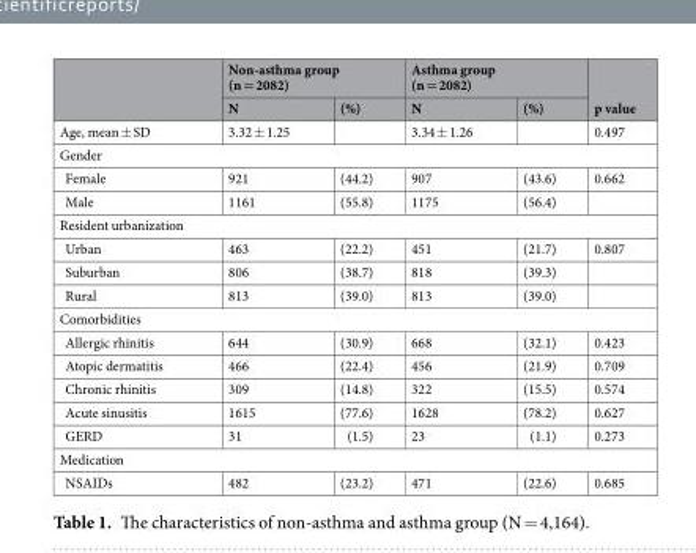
<table><thead><tr><td rowspan="2"></td><td colspan="2">Non-asthma group (n = 2082)</td><td colspan="2">Asthma group (n = 2082)</td><td rowspan="2">p value</td></tr><tr><td>N</td><td>(%)</td><td>N</td><td>(%)</td></tr></thead><tbody><tr><td>Age, mean ± SD</td><td>3.32 ± 1.25</td><td></td><td>3.34 ± 1.26</td><td></td><td>0.497</td></tr><tr><td colspan="6">Gender</td></tr><tr><td>Female</td><td>921</td><td>(44.2)</td><td>907</td><td>(43.6)</td><td>0.662</td></tr><tr><td>Male</td><td>1161</td><td>(55.8)</td><td>1175</td><td>(56.4)</td><td></td></tr><tr><td colspan="6">Resident urbanization</td></tr><tr><td>Urban</td><td>463</td><td>(22.2)</td><td>451</td><td>(21.7)</td><td>0.807</td></tr><tr><td>Suburban</td><td>806</td><td>(38.7)</td><td>818</td><td>(39.3)</td><td></td></tr><tr><td>Rural</td><td>813</td><td>(39.0)</td><td>813</td><td>(39.0)</td><td></td></tr><tr><td colspan="6">Comorbidities</td></tr><tr><td>Allergic rhinitis</td><td>644</td><td>(30.9)</td><td>668</td><td>(32.1)</td><td>0.423</td></tr><tr><td>Atopic dermatitis</td><td>466</td><td>(22.4)</td><td>456</td><td>(21.9)</td><td>0.709</td></tr><tr><td>Chronic rhinitis</td><td>309</td><td>(14.8)</td><td>322</td><td>(15.5)</td><td>0.574</td></tr><tr><td>Acute sinusitis</td><td>1615</td><td>(77.6)</td><td>1628</td><td>(78.2)</td><td>0.627</td></tr><tr><td>GERD</td><td>31</td><td>(1.5)</td><td>23</td><td>(1.1)</td><td>0.273</td></tr><tr><td colspan="6">Medication</td></tr><tr><td>NSAIDs</td><td>482</td><td>(23.2)</td><td>471</td><td>(22.6)</td><td>0.685</td></tr></tbody></table>